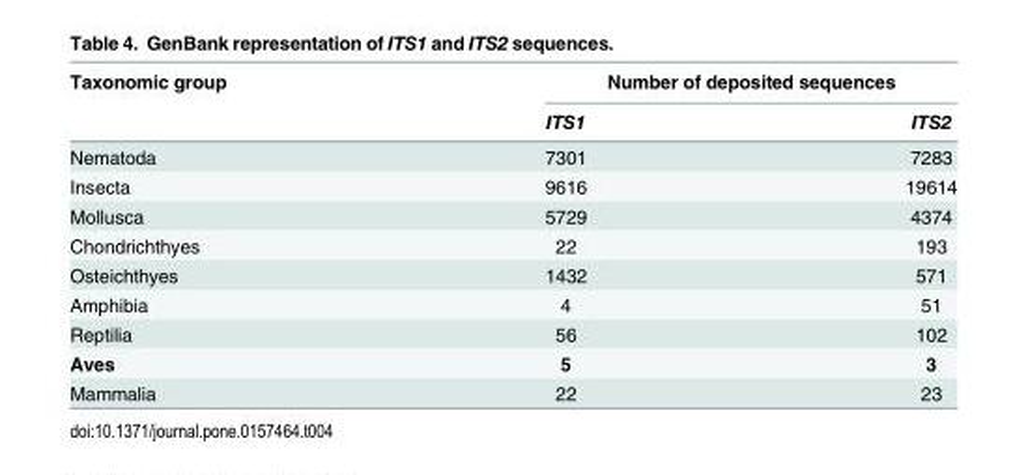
<table><thead><tr><td rowspan="2">Taxonomic group</td><td colspan="2">Number of deposited sequences</td></tr><tr><td>ITS1</td><td>ITS2</td></tr></thead><tbody><tr><td>Nematoda</td><td>7301</td><td>7283</td></tr><tr><td>Insecta</td><td>9616</td><td>19614</td></tr><tr><td>Mollusca</td><td>5729</td><td>4374</td></tr><tr><td>Chondrichthyes</td><td>22</td><td>193</td></tr><tr><td>Osteichthyes</td><td>1432</td><td>571</td></tr><tr><td>Amphibia</td><td>4</td><td>51</td></tr><tr><td>Reptilia</td><td>56</td><td>102</td></tr><tr><td>Aves</td><td>5</td><td>3</td></tr><tr><td>Mammalia</td><td>22</td><td>23</td></tr></tbody></table>